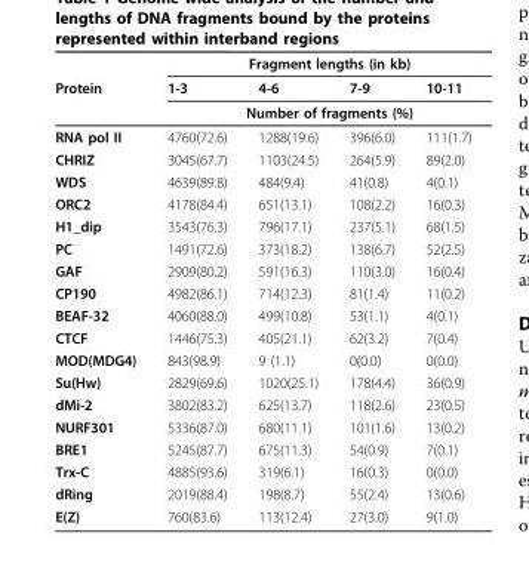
<table><thead><tr><td rowspan="3">Protein</td><td colspan="4">Fragment lengths (in kb)</td></tr><tr><td>1-3</td><td>4-6</td><td>7-9</td><td>10-11</td></tr><tr><td colspan="4">Number of fragments (%)</td></tr></thead><tbody><tr><td>RNA pol II</td><td>4760(72.6)</td><td>1288(19.6)</td><td>396(6.0)</td><td>111(1.7)</td></tr><tr><td>CHRIZ</td><td>3045(67.7)</td><td>1103(24.5)</td><td>264(5.9)</td><td>89(2.0)</td></tr><tr><td>WDS</td><td>4639(89.8)</td><td>484(9.4)</td><td>41(0.8)</td><td>4(0.1)</td></tr><tr><td>ORC2</td><td>4178(84.4)</td><td>651(13.1)</td><td>108(2.2)</td><td>16(0.3)</td></tr><tr><td>H1_dip</td><td>3543(76.3)</td><td>796(17.1)</td><td>237(5.1)</td><td>68(1.5)</td></tr><tr><td>PC</td><td>1491(72.6)</td><td>373(18.2)</td><td>138(6.7)</td><td>52(2.5)</td></tr><tr><td>GAF</td><td>2909(80.2)</td><td>591(16.3)</td><td>110(3.0)</td><td>16(0.4)</td></tr><tr><td>CP190</td><td>4982(86.1)</td><td>714(12.3)</td><td>81(1.4)</td><td>11(0.2)</td></tr><tr><td>BEAF-32</td><td>4060(88.0)</td><td>499(10.8)</td><td>53(1.1)</td><td>4(0.1)</td></tr><tr><td>CTCF</td><td>1446(75.3)</td><td>405(21.1)</td><td>62(3.2)</td><td>7(0.4)</td></tr><tr><td>MOD(MDG4)</td><td>843(98.9)</td><td>9 (1.1)</td><td>0(0.0)</td><td>0(0.0)</td></tr><tr><td>Su(Hw)</td><td>2829(69.6)</td><td>1020(25.1)</td><td>178(4.4)</td><td>36(0.9)</td></tr><tr><td>dMi-2</td><td>3802(83.2)</td><td>625(13.7)</td><td>118(2.6)</td><td>23(0.5)</td></tr><tr><td>NURF301</td><td>5336(87.0)</td><td>680(11.1)</td><td>101(1.6)</td><td>13(0.2)</td></tr><tr><td>BRE1</td><td>5245(87.7)</td><td>675(11.3)</td><td>54(0.9)</td><td>7(0.1)</td></tr><tr><td>Trx-C</td><td>4885(93.6)</td><td>319(6.1)</td><td>16(0.3)</td><td>0(0.0)</td></tr><tr><td>dRing</td><td>2019(88.4)</td><td>198(8.7)</td><td>55(2.4)</td><td>13(0.6)</td></tr><tr><td>E(Z)</td><td>760(83.6)</td><td>113(12.4)</td><td>27(3.0)</td><td>9(1.0)</td></tr></tbody></table>